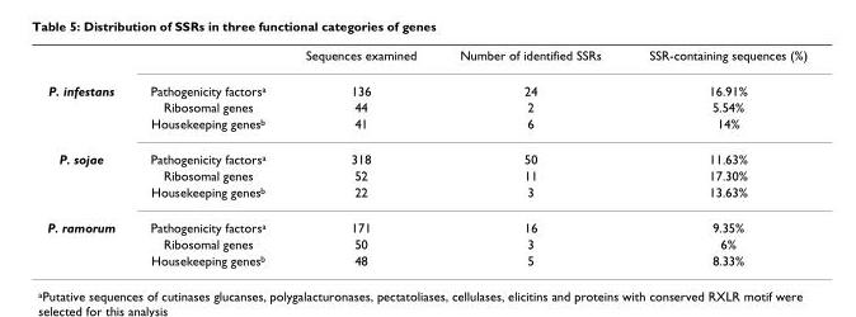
<table><thead><tr><td></td><td></td><td>Sequences examined</td><td>Number of identified SSRs</td><td>SSR-containing sequences (%)</td></tr></thead><tbody><tr><td rowspan="3">P. infestans</td><td>Pathogenicity factorsa</td><td>136</td><td>24</td><td>16.91%</td></tr><tr><td>Ribosomal genes</td><td>44</td><td>2</td><td>5.54%</td></tr><tr><td>Housekeeping genesb</td><td>41</td><td>6</td><td>14%</td></tr><tr><td rowspan="3">P. sojae</td><td>Pathogenicity factorsa</td><td>318</td><td>50</td><td>11.63%</td></tr><tr><td>Ribosomal genes</td><td>52</td><td>11</td><td>17.30%</td></tr><tr><td>Housekeeping genesb</td><td>22</td><td>3</td><td>13.63%</td></tr><tr><td rowspan="3">P. ramorum</td><td>Pathogenicity factorsa</td><td>171</td><td>16</td><td>9.35%</td></tr><tr><td>Ribosomal genes</td><td>50</td><td>3</td><td>6%</td></tr><tr><td>Housekeeping genesb</td><td>48</td><td>5</td><td>8.33%</td></tr></tbody></table>